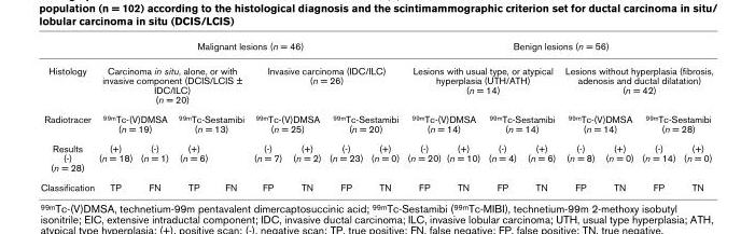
<table><thead><tr><td rowspan="4">Histology Radiotracer Results (-) (n = 28)</td><td colspan="8">Malignant lesions (n = 46)</td><td colspan="8">Benign lesions (n = 56)</td></tr><tr><td colspan="4">Carcinoma in situ, alone, or with invasive component (DCIS/LCIS ± IDC/ILC) (n = 20)</td><td colspan="4">Invasive carcinoma (IDC/ILC) (n = 26)</td><td colspan="4">Lesions with usual type, or atypical hyperplasia (UTH/ATH) (n = 14)</td><td colspan="4">Lesions without hyperplasia (fibrosis, adenosis and ductal dilatation) (n = 42)</td></tr><tr><td colspan="2">99mTc-(V)DMSA (n = 19)</td><td colspan="2">99mTc-Sestamibi (n = 13)</td><td colspan="2">99mTc-(V)DMSA (n = 25)</td><td colspan="2">99mTc-Sestamibi (n = 20)</td><td colspan="2">99mTc-(V)DMSA (n = 14)</td><td colspan="2">99mTc-Sestamibi (n = 14)</td><td colspan="2">99mTc-(V)DMSA (n = 14)</td><td colspan="2">99mTc-Sestamibi (n = 28)</td></tr><tr><td>(+) (n = 18)</td><td>(-) (n = 1)</td><td>(+) (n = 6)</td><td></td><td>(-) (n = 7)</td><td>(+) (n = 2)</td><td>(-) (n = 23)</td><td>(+) (n = 0)</td><td>(-) (n = 20)</td><td>(+) (n = 10)</td><td>(-) (n = 4)</td><td>(+) (n = 6)</td><td>(-) (n = 8)</td><td>(+) (n = 0)</td><td>(-) (n = 14)</td><td>(+) (n = 0)</td></tr></thead><tbody><tr><td>Classification</td><td>TP</td><td>FN</td><td>TP</td><td>FN</td><td>FP</td><td>TN</td><td>FP</td><td>TN</td><td>FP</td><td>TN</td><td>FP</td><td>TN</td><td>FP</td><td>TN</td><td>FP</td><td>TN</td></tr></tbody></table>